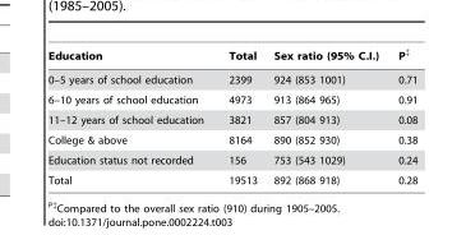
<table><thead><tr><td>Education</td><td>Total</td><td>Sex ratio (95% C.I.)</td><td>P‡</td></tr></thead><tbody><tr><td>0–5 years of school education</td><td>2399</td><td>924 (853 1001)</td><td>0.71</td></tr><tr><td>6–10 years of school education</td><td>4973</td><td>913 (864 965)</td><td>0.91</td></tr><tr><td>11–12 years of school education</td><td>3821</td><td>857 (804 913)</td><td>0.08</td></tr><tr><td>College &amp; above</td><td>8164</td><td>890 (852 930)</td><td>0.38</td></tr><tr><td>Education status not recorded</td><td>156</td><td>753 (543 1029)</td><td>0.24</td></tr><tr><td>Total</td><td>19513</td><td>892 (868 918)</td><td>0.28</td></tr></tbody></table>